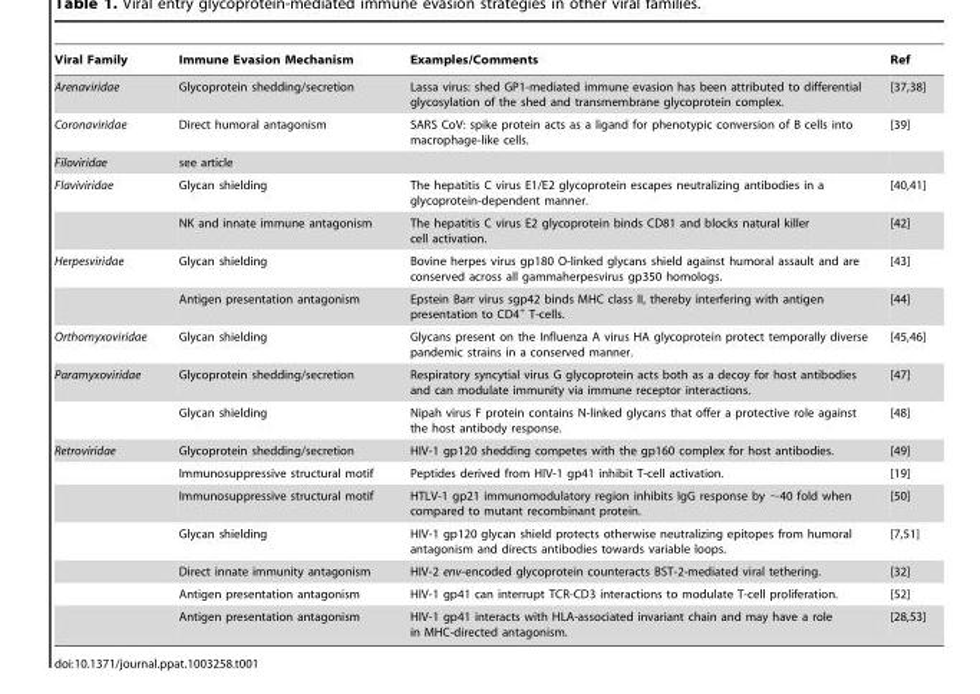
<table><thead><tr><td>Viral Family</td><td>Immune Evasion Mechanism</td><td>Examples/Comments</td><td>Ref</td></tr></thead><tbody><tr><td>Arenaviridae</td><td>Glycoprotein shedding/secretion</td><td>Lassa virus: shed GP1-mediated immune evasion has been attributed to differential glycosylation of the shed and transmembrane glycoprotein complex.</td><td>[37,38]</td></tr><tr><td>Coronaviridae</td><td>Direct humoral antagonism</td><td>SARS CoV: spike protein acts as a ligand for phenotypic conversion of B cells into macrophage-like cells.</td><td>[39]</td></tr><tr><td>Filoviridae</td><td>see article</td><td></td><td></td></tr><tr><td rowspan="2">Flaviviridae</td><td>Glycan shielding</td><td>The hepatitis C virus E1/E2 glycoprotein escapes neutralizing antibodies in a glycoprotein-dependent manner.</td><td>[40,41]</td></tr><tr><td>NK and innate immune antagonism</td><td>The hepatitis C virus E2 glycoprotein binds CD81 and blocks natural killer cell activation.</td><td>[42]</td></tr><tr><td rowspan="2">Herpesviridae</td><td>Glycan shielding</td><td>Bovine herpes virus gp180 O-linked glycans shield against humoral assault and are conserved across all gammaherpesvirus gp350 homologs.</td><td>[43]</td></tr><tr><td>Antigen presentation antagonism</td><td>Epstein Barr virus sgp42 binds MHC class II, thereby interfering with antigen presentation to CD4<sup>+</sup> T-cells.</td><td>[44]</td></tr><tr><td>Orthomyxoviridae</td><td>Glycan shielding</td><td>Glycans present on the Influenza A virus HA glycoprotein protect temporally diverse pandemic strains in a conserved manner.</td><td>[45,46]</td></tr><tr><td rowspan="2">Paramyxoviridae</td><td>Glycoprotein shedding/secretion</td><td>Respiratory syncytial virus G glycoprotein acts both as a decoy for host antibodies and can modulate immunity via immune receptor interactions.</td><td>[47]</td></tr><tr><td>Glycan shielding</td><td>Nipah virus F protein contains N-linked glycans that offer a protective role against the host antibody response.</td><td>[48]</td></tr><tr><td rowspan="7">Retroviridae</td><td>Glycoprotein shedding/secretion</td><td>HIV-1 gp120 shedding competes with the gp160 complex for host antibodies.</td><td>[49]</td></tr><tr><td>Immunosuppressive structural motif</td><td>Peptides derived from HIV-1 gp41 inhibit T-cell activation.</td><td>[19]</td></tr><tr><td>Immunosuppressive structural motif</td><td>HTLV-1 gp21 immunomodulatory region inhibits IgG response by ∼40 fold when compared to mutant recombinant protein.</td><td>[50]</td></tr><tr><td>Glycan shielding</td><td>HIV-1 gp120 glycan shield protects otherwise neutralizing epitopes from humoral antagonism and directs antibodies towards variable loops.</td><td>[7,51]</td></tr><tr><td>Direct innate immunity antagonism</td><td>HIV-2 env-encoded glycoprotein counteracts BST-2-mediated viral tethering.</td><td>[32]</td></tr><tr><td>Antigen presentation antagonism</td><td>HIV-1 gp41 can interrupt TCR-CD3 interactions to modulate T-cell proliferation.</td><td>[52]</td></tr><tr><td>Antigen presentation antagonism</td><td>HIV-1 gp41 interacts with HLA-associated invariant chain and may have a role in MHC-directed antagonism.</td><td>[28,53]</td></tr></tbody></table>